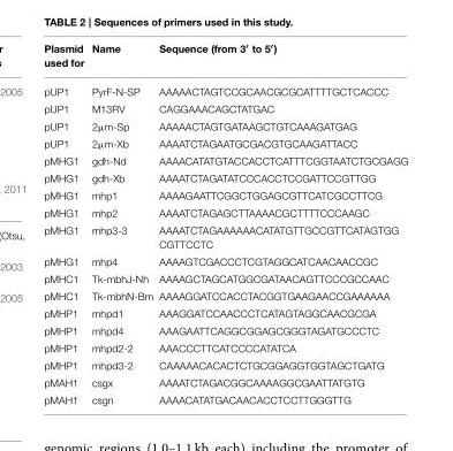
<table><thead><tr><td>Plasmid used for</td><td>Name</td><td>Sequence (from 3′ to 5′)</td></tr></thead><tbody><tr><td>pUP1</td><td>PyrF-N-SP</td><td>AAAAACTAGTCCGCAACGCGCATTTTGCTCACCC</td></tr><tr><td>pUP1</td><td>M13RV</td><td>CAGGAAACAGCTATGAC</td></tr><tr><td>pUP1</td><td>2µm-Sp</td><td>AAAAACTAGTGATAAGCTGTCAAAGATGAG</td></tr><tr><td>pUP1</td><td>2µm-Xb</td><td>AAAATCTAGAATGCGACGTGCAAGATTACC</td></tr><tr><td>pMHG1</td><td>gdh-Nd</td><td>AAAACATATGTACCACCTCATTTCGGTAATCTGCGAGG</td></tr><tr><td>pMHG1</td><td>gdh-Xb</td><td>AAAATCTAGATATCCCACCTCCGATTCCGTTGG</td></tr><tr><td>pMHG1</td><td>mhp1</td><td>AAAAGAATTCGGCTGGAGCGTTCATCGCCTTCG</td></tr><tr><td>pMHG1</td><td>mhp2</td><td>AAAATCTAGAGCTTAAAACGCTTTTCCCAAGC</td></tr><tr><td>pMHG1</td><td>mhp3-3</td><td>AAAATCTAGAAAAAACATATGTTGCCGTTCATAGTGG CGTTCCTC</td></tr><tr><td>pMHG1</td><td>mhp4</td><td>AAAAGTCGACCCTCGTAGGCATCAACAACCGC</td></tr><tr><td>pMHC1</td><td>Tk-mbhJ-Nh</td><td>AAAAGCTAGCATGGCGATAACAGTTCCCGCCAAC</td></tr><tr><td>pMHC1</td><td>Tk-mbhN-Bm</td><td>AAAAGGATCCACCTACGGTGAAGAACCGAAAAAA</td></tr><tr><td>pMHP1</td><td>mhpd1</td><td>AAAGGATCCAACCCTCATAGTAGGCAACGCGA</td></tr><tr><td>pMHP1</td><td>mhpd4</td><td>AAAGAATTCAGGCGGAGCGGGTAGATGCCCTC</td></tr><tr><td>pMHP1</td><td>mhpd2-2</td><td>AAACCCTTCATCCCCATATCA</td></tr><tr><td>pMHP1</td><td>mhpd3-2</td><td>CAAAAACACACTCTGCGGAGGTGGTAGCTGATG</td></tr><tr><td>pMAH1</td><td>csgx</td><td>AAAATCTAGACGGCAAAAGGCGAATTATGTG</td></tr><tr><td>pMAH1</td><td>csgn</td><td>AAAACATATGACAACACCTCCTTGGGTTG</td></tr></tbody></table>